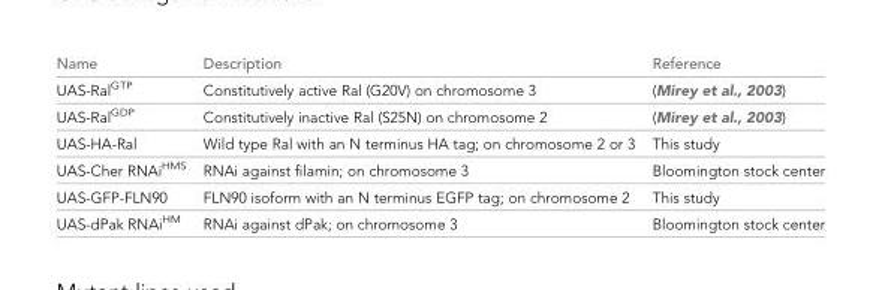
<table><thead><tr><td>Name</td><td>Description</td><td>Reference</td></tr></thead><tbody><tr><td>UAS-Ral<sup>GTP</sup></td><td>Constitutively active Ral (G20V) on chromosome 3</td><td>(Mirey et al., 2003)</td></tr><tr><td>UAS-Ral<sup>GDP</sup></td><td>Constitutively inactive Ral (S25N) on chromosome 2</td><td>(Mirey et al., 2003)</td></tr><tr><td>UAS-HA-Ral</td><td>Wild type Ral with an N terminus HA tag; on chromosome 2 or 3</td><td>This study</td></tr><tr><td>UAS-Cher RNAi<sup>HMS</sup></td><td>RNAi against filamin; on chromosome 3</td><td>Bloomington stock center</td></tr><tr><td>UAS-GFP-FLN90</td><td>FLN90 isoform with an N terminus EGFP tag; on chromosome 2</td><td>This study</td></tr><tr><td>UAS-dPak RNAi<sup>HM</sup></td><td>RNAi against dPak; on chromosome 3</td><td>Bloomington stock center</td></tr></tbody></table>